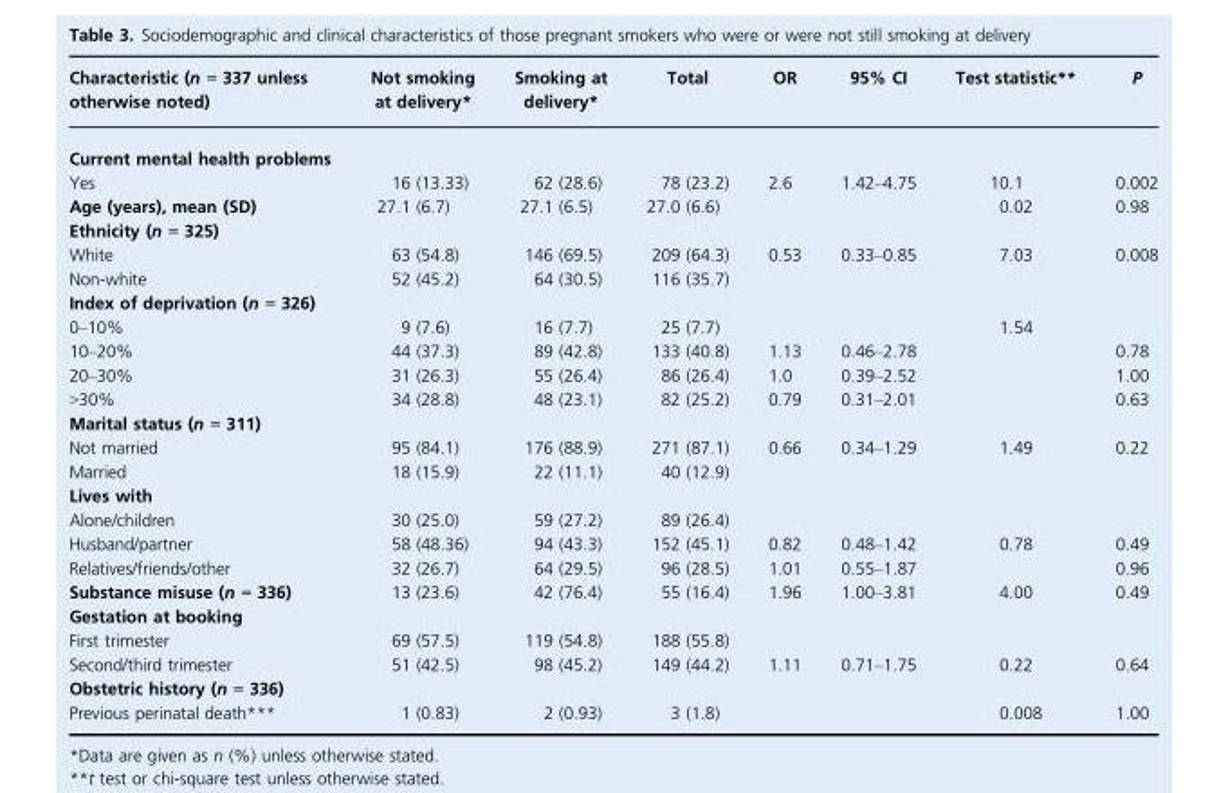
<table><thead><tr><td>Characteristic (n = 337 unless otherwise noted)</td><td>Not smoking at delivery*</td><td>Smoking at delivery*</td><td>Total</td><td>OR</td><td>95% CI</td><td>Test statistic**</td><td>P</td></tr></thead><tbody><tr><td colspan="8">Current mental health problems</td></tr><tr><td>Yes</td><td>16 (13.33)</td><td>62 (28.6)</td><td>78 (23.2)</td><td>2.6</td><td>1.42–4.75</td><td>10.1</td><td>0.002</td></tr><tr><td>Age (years), mean (SD)</td><td>27.1 (6.7)</td><td>27.1 (6.5)</td><td>27.0 (6.6)</td><td></td><td></td><td>0.02</td><td>0.98</td></tr><tr><td colspan="8">Ethnicity (n = 325)</td></tr><tr><td>White</td><td>63 (54.8)</td><td>146 (69.5)</td><td>209 (64.3)</td><td>0.53</td><td>0.33–0.85</td><td>7.03</td><td>0.008</td></tr><tr><td>Non-white</td><td>52 (45.2)</td><td>64 (30.5)</td><td>116 (35.7)</td><td></td><td></td><td></td><td></td></tr><tr><td colspan="8">Index of deprivation (n = 326)</td></tr><tr><td>0–10%</td><td>9 (7.6)</td><td>16 (7.7)</td><td>25 (7.7)</td><td></td><td></td><td rowspan="4">1.54</td><td></td></tr><tr><td>10–20%</td><td>44 (37.3)</td><td>89 (42.8)</td><td>133 (40.8)</td><td>1.13</td><td>0.46–2.78</td><td>0.78</td></tr><tr><td>20–30%</td><td>31 (26.3)</td><td>55 (26.4)</td><td>86 (26.4)</td><td>1.0</td><td>0.39–2.52</td><td>1.00</td></tr><tr><td>&gt;30%</td><td>34 (28.8)</td><td>48 (23.1)</td><td>82 (25.2)</td><td>0.79</td><td>0.31–2.01</td><td>0.63</td></tr><tr><td colspan="8">Marital status (n = 311)</td></tr><tr><td>Not married</td><td>95 (84.1)</td><td>176 (88.9)</td><td>271 (87.1)</td><td>0.66</td><td>0.34–1.29</td><td>1.49</td><td>0.22</td></tr><tr><td>Married</td><td>18 (15.9)</td><td>22 (11.1)</td><td>40 (12.9)</td><td></td><td></td><td></td><td></td></tr><tr><td colspan="8">Lives with</td></tr><tr><td>Alone/children</td><td>30 (25.0)</td><td>59 (27.2)</td><td>89 (26.4)</td><td></td><td></td><td></td><td></td></tr><tr><td>Husband/partner</td><td>58 (48.36)</td><td>94 (43.3)</td><td>152 (45.1)</td><td>0.82</td><td>0.48–1.42</td><td>0.78</td><td>0.49</td></tr><tr><td>Relatives/friends/other</td><td>32 (26.7)</td><td>64 (29.5)</td><td>96 (28.5)</td><td>1.01</td><td>0.55–1.87</td><td></td><td>0.96</td></tr><tr><td>Substance misuse (n = 336)</td><td>13 (23.6)</td><td>42 (76.4)</td><td>55 (16.4)</td><td>1.96</td><td>1.00–3.81</td><td>4.00</td><td>0.49</td></tr><tr><td colspan="8">Gestation at booking</td></tr><tr><td>First trimester</td><td>69 (57.5)</td><td>119 (54.8)</td><td>188 (55.8)</td><td></td><td></td><td></td><td></td></tr><tr><td>Second/third trimester</td><td>51 (42.5)</td><td>98 (45.2)</td><td>149 (44.2)</td><td>1.11</td><td>0.71–1.75</td><td>0.22</td><td>0.64</td></tr><tr><td colspan="8">Obstetric history (n = 336)</td></tr><tr><td>Previous perinatal death***</td><td>1 (0.83)</td><td>2 (0.93)</td><td>3 (1.8)</td><td></td><td></td><td>0.008</td><td>1.00</td></tr></tbody></table>